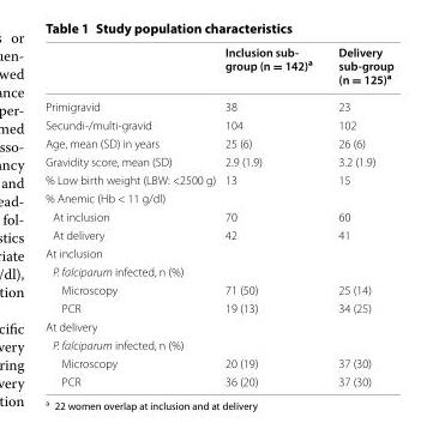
<table><thead><tr><td></td><td>Inclusion sub‑ group (n = 142)<sup>a</sup></td><td>Delivery sub‑group (n = 125)<sup>a</sup></td></tr></thead><tbody><tr><td>Primigravid</td><td>38</td><td>23</td></tr><tr><td>Secundi‑/multi‑gravid</td><td>104</td><td>102</td></tr><tr><td>Age, mean (SD) in years</td><td>25 (6)</td><td>26 (6)</td></tr><tr><td>Gravidity score, mean (SD)</td><td>2.9 (1.9)</td><td>3.2 (1.9)</td></tr><tr><td>% Low birth weight (LBW: &lt;2500 g)</td><td>13</td><td>15</td></tr><tr><td colspan="3">% Anemic (Hb &lt; 11 g/dl)</td></tr><tr><td>At inclusion</td><td>70</td><td>60</td></tr><tr><td>At delivery</td><td>42</td><td>41</td></tr><tr><td colspan="3">At inclusion</td></tr><tr><td colspan="3">P. falciparum infected, n (%)</td></tr><tr><td>Microscopy</td><td>71 (50)</td><td>25 (14)</td></tr><tr><td>PCR</td><td>19 (13)</td><td>34 (25)</td></tr><tr><td colspan="3">At delivery</td></tr><tr><td colspan="3">P. falciparum infected, n (%)</td></tr><tr><td>Microscopy</td><td>20 (19)</td><td>37 (30)</td></tr><tr><td>PCR</td><td>36 (20)</td><td>37 (30)</td></tr></tbody></table>